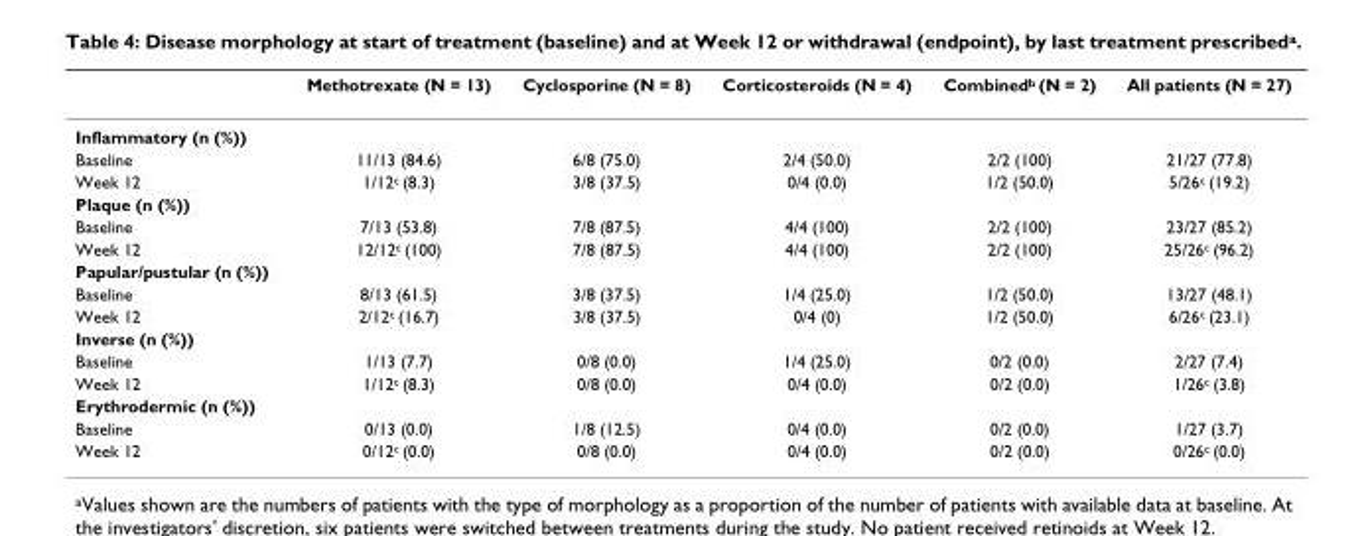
<table><thead><tr><td></td><td>Methotrexate (N = 13)</td><td>Cyclosporine (N = 8)</td><td>Corticosteroids (N = 4)</td><td>Combinedb (N = 2)</td><td>All patients (N = 27)</td></tr></thead><tbody><tr><td colspan="6">Inflammatory (n (%))</td></tr><tr><td>Baseline</td><td>11/13 (84.6)</td><td>6/8 (75.0)</td><td>2/4 (50.0)</td><td>2/2 (100)</td><td>21/27 (77.8)</td></tr><tr><td>Week 12</td><td>1/12c (8.3)</td><td>3/8 (37.5)</td><td>0/4 (0.0)</td><td>1/2 (50.0)</td><td>5/26c (19.2)</td></tr><tr><td colspan="6">Plaque (n (%))</td></tr><tr><td>Baseline</td><td>7/13 (53.8)</td><td>7/8 (87.5)</td><td>4/4 (100)</td><td>2/2 (100)</td><td>23/27 (85.2)</td></tr><tr><td>Week 12</td><td>12/12c (100)</td><td>7/8 (87.5)</td><td>4/4 (100)</td><td>2/2 (100)</td><td>25/26c (96.2)</td></tr><tr><td colspan="6">Papular/pustular (n (%))</td></tr><tr><td>Baseline</td><td>8/13 (61.5)</td><td>3/8 (37.5)</td><td>1/4 (25.0)</td><td>1/2 (50.0)</td><td>13/27 (48.1)</td></tr><tr><td>Week 12</td><td>2/12c (16.7)</td><td>3/8 (37.5)</td><td>0/4 (0)</td><td>1/2 (50.0)</td><td>6/26c (23.1)</td></tr><tr><td colspan="6">Inverse (n (%))</td></tr><tr><td>Baseline</td><td>1/13 (7.7)</td><td>0/8 (0.0)</td><td>1/4 (25.0)</td><td>0/2 (0.0)</td><td>2/27 (7.4)</td></tr><tr><td>Week 12</td><td>1/12c (8.3)</td><td>0/8 (0.0)</td><td>0/4 (0.0)</td><td>0/2 (0.0)</td><td>1/26c (3.8)</td></tr><tr><td colspan="6">Erythrodermic (n (%))</td></tr><tr><td>Baseline</td><td>0/13 (0.0)</td><td>1/8 (12.5)</td><td>0/4 (0.0)</td><td>0/2 (0.0)</td><td>1/27 (3.7)</td></tr><tr><td>Week 12</td><td>0/12c (0.0)</td><td>0/8 (0.0)</td><td>0/4 (0.0)</td><td>0/2 (0.0)</td><td>0/26c (0.0)</td></tr></tbody></table>